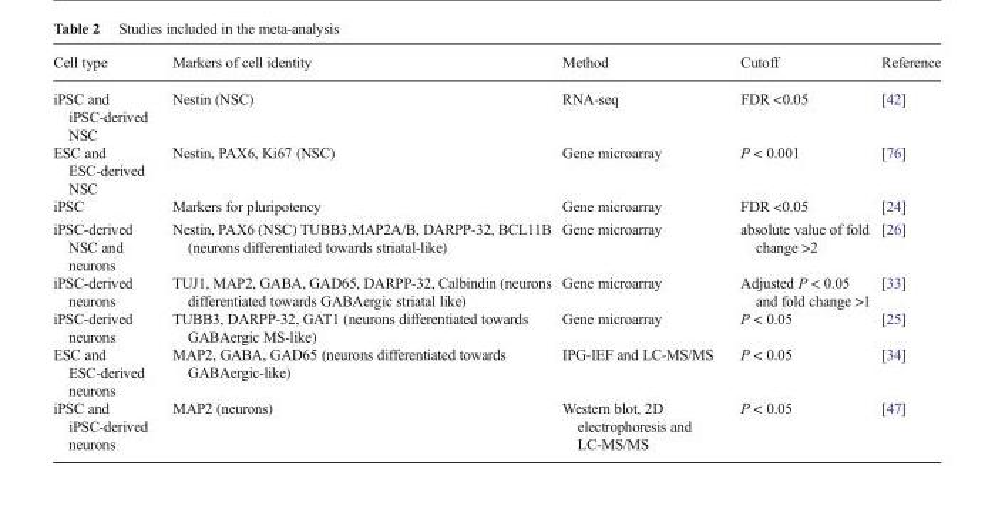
<table><thead><tr><td>Cell type</td><td>Markers of cell identity</td><td>Method</td><td>Cutoff</td><td>Reference</td></tr></thead><tbody><tr><td>iPSC and iPSC-derived NSC</td><td>Nestin (NSC)</td><td>RNA-seq</td><td>FDR &lt;0.05</td><td>[42]</td></tr><tr><td>ESC and ESC-derived NSC</td><td>Nestin, PAX6, Ki67 (NSC)</td><td>Gene microarray</td><td>P &lt; 0.001</td><td>[76]</td></tr><tr><td>iPSC</td><td>Markers for pluripotency</td><td>Gene microarray</td><td>FDR &lt;0.05</td><td>[24]</td></tr><tr><td>iPSC-derived NSC and neurons</td><td>Nestin, PAX6 (NSC) TUBB3,MAP2A/B, DARPP-32, BCL11B (neurons differentiated towards striatal-like)</td><td>Gene microarray</td><td>absolute value of fold change &gt;2</td><td>[26]</td></tr><tr><td>iPSC-derived neurons</td><td>TUJ1, MAP2, GABA, GAD65, DARPP-32, Calbindin (neurons differentiated towards GABAergic striatal like)</td><td>Gene microarray</td><td>Adjusted P &lt; 0.05 and fold change &gt;1</td><td>[33]</td></tr><tr><td>iPSC-derived neurons</td><td>TUBB3, DARPP-32, GAT1 (neurons differentiated towards GABAergic MS-like)</td><td>Gene microarray</td><td>P &lt; 0.05</td><td>[25]</td></tr><tr><td>ESC and ESC-derived neurons</td><td>MAP2, GABA, GAD65 (neurons differentiated towards GABAergic-like)</td><td>IPG-IEF and LC-MS/MS</td><td>P &lt; 0.05</td><td>[34]</td></tr><tr><td>iPSC and iPSC-derived neurons</td><td>MAP2 (neurons)</td><td>Western blot, 2D electrophoresis and LC-MS/MS</td><td>P &lt; 0.05</td><td>[47]</td></tr></tbody></table>